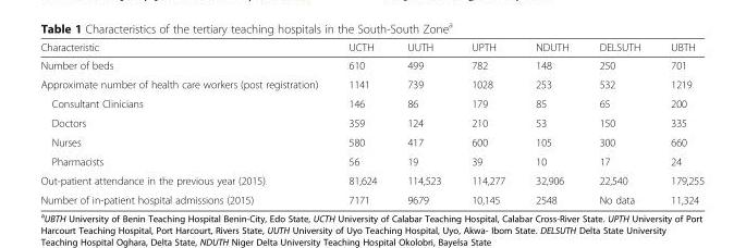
<table><thead><tr><td>Characteristic</td><td>UCTH</td><td>UUTH</td><td>UPTH</td><td>NDUTH</td><td>DELSUTH</td><td>UBTH</td></tr></thead><tbody><tr><td>Number of beds</td><td>610</td><td>499</td><td>782</td><td>148</td><td>250</td><td>701</td></tr><tr><td>Approximate number of health care workers (post registration)</td><td>1141</td><td>739</td><td>1028</td><td>253</td><td>532</td><td>1219</td></tr><tr><td>Consultant Clinicians</td><td>146</td><td>86</td><td>179</td><td>85</td><td>65</td><td>200</td></tr><tr><td>Doctors</td><td>359</td><td>124</td><td>210</td><td>53</td><td>150</td><td>335</td></tr><tr><td>Nurses</td><td>580</td><td>417</td><td>600</td><td>105</td><td>300</td><td>660</td></tr><tr><td>Pharmacists</td><td>56</td><td>19</td><td>39</td><td>10</td><td>17</td><td>24</td></tr><tr><td>Out-patient attendance in the previous year (2015)</td><td>81,624</td><td>114,523</td><td>114,277</td><td>32,906</td><td>22,540</td><td>179,255</td></tr><tr><td>Number of in-patient hospital admissions (2015)</td><td>7171</td><td>9679</td><td>10,145</td><td>2548</td><td>No data</td><td>11,324</td></tr></tbody></table>